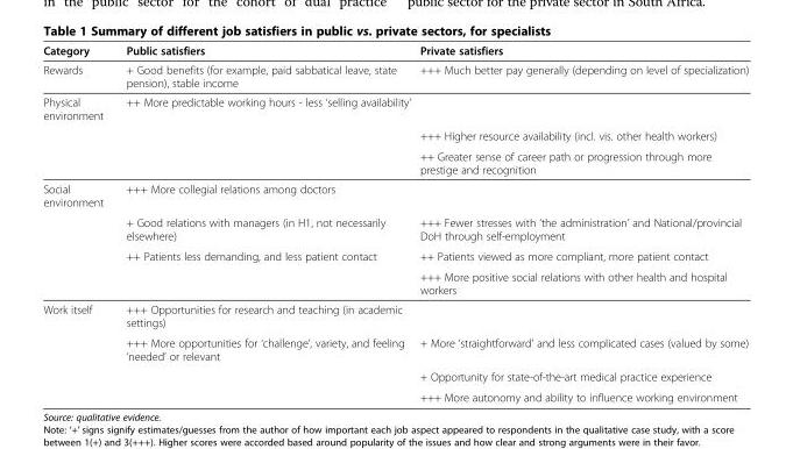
<table><thead><tr><td>Category</td><td>Public satisfiers</td><td>Private satisfiers</td></tr></thead><tbody><tr><td>Rewards</td><td>+ Good benefits (for example, paid sabbatical leave, state pension), stable income</td><td>+++ Much better pay generally (depending on level of specialization)</td></tr><tr><td rowspan="3">Physical environment</td><td>++ More predictable working hours - less ‘selling availability’</td><td></td></tr><tr><td></td><td>+++ Higher resource availability (incl. vis. other health workers)</td></tr><tr><td></td><td>++ Greater sense of career path or progression through more prestige and recognition</td></tr><tr><td rowspan="4">Social environment</td><td>+++ More collegial relations among doctors</td><td></td></tr><tr><td>+ Good relations with managers (in H1, not necessarily elsewhere)</td><td>+++ Fewer stresses with ‘the administration’ and National/provincial DoH through self-employment</td></tr><tr><td>++ Patients less demanding, and less patient contact</td><td>++ Patients viewed as more compliant, more patient contact</td></tr><tr><td></td><td>+++ More positive social relations with other health and hospital workers</td></tr><tr><td rowspan="4">Work itself</td><td>+++ Opportunities for research and teaching (in academic settings)</td><td></td></tr><tr><td>+++ More opportunities for ‘challenge’, variety, and feeling ‘needed’ or relevant</td><td>+ More ‘straightforward’ and less complicated cases (valued by some)</td></tr><tr><td></td><td>+ Opportunity for state-of-the-art medical practice experience</td></tr><tr><td></td><td>+++ More autonomy and ability to influence working environment</td></tr></tbody></table>